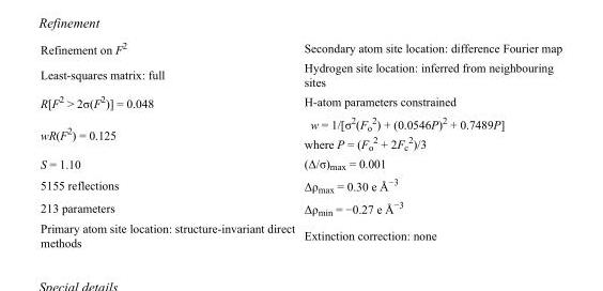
<table><tbody><tr><td>Refinement on F<sup>2</sup></td><td>Secondary atom site location: difference Fourier map</td></tr><tr><td>Least-squares matrix: full</td><td>Hydrogen site location: inferred from neighbouring sites</td></tr><tr><td>R[F<sup>2</sup> &gt; 2σ(F<sup>2</sup>)] = 0.048</td><td>H-atom parameters constrained</td></tr><tr><td>wR(F<sup>2</sup>) = 0.125</td><td>w = 1/[σ<sup>2</sup>(F<sub>o</sub> <sup>2</sup>) + (0.0546P)<sup>2</sup> + 0.7489P] where P = (F<sub>o</sub> <sup>2</sup> + 2F<sub>c</sub> <sup>2</sup>)/3</td></tr><tr><td>S = 1.10</td><td>(Δ/σ)<sub>max</sub> = 0.001</td></tr><tr><td>5155 reflections</td><td>Δρ<sub>max</sub> = 0.30 e Å<sup>−3</sup></td></tr><tr><td>213 parameters</td><td>Δρ<sub>min</sub> = −0.27 e Å<sup>−3</sup></td></tr><tr><td>Primary atom site location: structure-invariant direct methods</td><td>Extinction correction: none</td></tr></tbody></table>